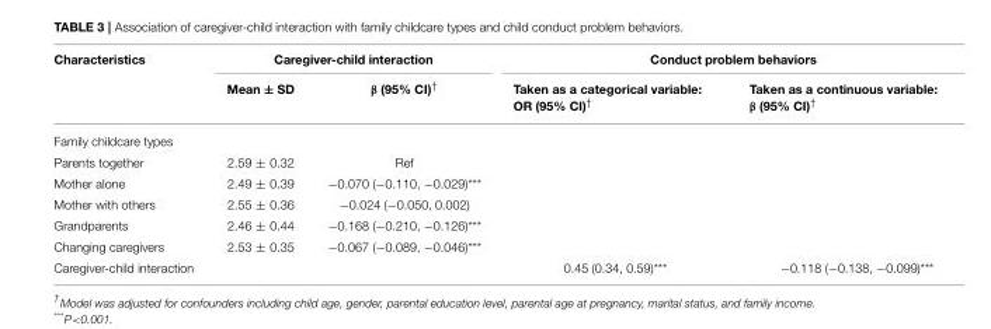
<table><thead><tr><td rowspan="2">Characteristics</td><td colspan="2">Caregiver-child interaction</td><td colspan="2">Conduct problem behaviors</td></tr><tr><td>Mean ± SD</td><td>β (95% CI)<sup>†</sup></td><td>Taken as a categorical variable: OR (95% CI)<sup>†</sup></td><td>Taken as a continuous variable: β (95% CI)<sup>†</sup></td></tr></thead><tbody><tr><td colspan="5">Family childcare types</td></tr><tr><td>Parents together</td><td>2.59 ± 0.32</td><td>Ref</td><td></td><td></td></tr><tr><td>Mother alone</td><td>2.49 ± 0.39</td><td>−0.070 (−0.110, −0.029)***</td><td></td><td></td></tr><tr><td>Mother with others</td><td>2.55 ± 0.36</td><td>−0.024 (−0.050, 0.002)</td><td></td><td></td></tr><tr><td>Grandparents</td><td>2.46 ± 0.44</td><td>−0.168 (−0.210, −0.126)***</td><td></td><td></td></tr><tr><td>Changing caregivers</td><td>2.53 ± 0.35</td><td>−0.067 (−0.089, −0.046)***</td><td></td><td></td></tr><tr><td>Caregiver-child interaction</td><td></td><td></td><td>0.45 (0.34, 0.59)***</td><td>−0.118 (−0.138, −0.099)***</td></tr></tbody></table>